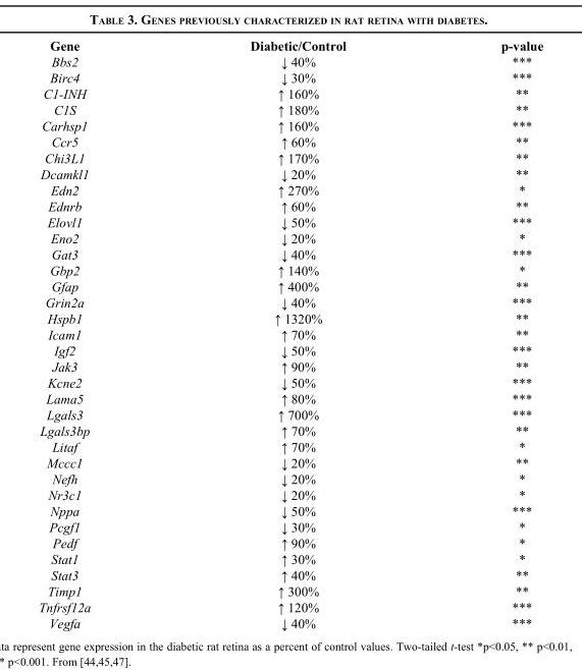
<table><thead><tr><td>Gene</td><td>Diabetic/Control</td><td>p-value</td></tr></thead><tbody><tr><td>Bbs2</td><td>↓ 40%</td><td>***</td></tr><tr><td>Birc4</td><td>↓ 30%</td><td>***</td></tr><tr><td>C1-INH</td><td>↑ 160%</td><td>**</td></tr><tr><td>C1S</td><td>↑ 180%</td><td>**</td></tr><tr><td>Carhsp1</td><td>↑ 160%</td><td>***</td></tr><tr><td>Ccr5</td><td>↑ 60%</td><td>**</td></tr><tr><td>Chi3L1</td><td>↑ 170%</td><td>**</td></tr><tr><td>Dcamkl1</td><td>↓ 20%</td><td>**</td></tr><tr><td>Edn2</td><td>↑ 270%</td><td>*</td></tr><tr><td>Ednrb</td><td>↑ 60%</td><td>**</td></tr><tr><td>Elovl1</td><td>↓ 50%</td><td>***</td></tr><tr><td>Eno2</td><td>↓ 20%</td><td>*</td></tr><tr><td>Gat3</td><td>↓ 40%</td><td>***</td></tr><tr><td>Gbp2</td><td>↑ 140%</td><td>*</td></tr><tr><td>Gfap</td><td>↑ 400%</td><td>**</td></tr><tr><td>Grin2a</td><td>↓ 40%</td><td>***</td></tr><tr><td>Hspb1</td><td>↑ 1320%</td><td>**</td></tr><tr><td>Icam1</td><td>↑ 70%</td><td>**</td></tr><tr><td>Igf2</td><td>↓ 50%</td><td>***</td></tr><tr><td>Jak3</td><td>↑ 90%</td><td>**</td></tr><tr><td>Kcne2</td><td>↓ 50%</td><td>***</td></tr><tr><td>Lama5</td><td>↑ 80%</td><td>***</td></tr><tr><td>Lgals3</td><td>↑ 700%</td><td>***</td></tr><tr><td>Lgals3bp</td><td>↑ 70%</td><td>**</td></tr><tr><td>Litaf</td><td>↑ 70%</td><td>*</td></tr><tr><td>Mccc1</td><td>↓ 20%</td><td>**</td></tr><tr><td>Nefh</td><td>↓ 20%</td><td>*</td></tr><tr><td>Nr3c1</td><td>↓ 20%</td><td>*</td></tr><tr><td>Nppa</td><td>↓ 50%</td><td>***</td></tr><tr><td>Pcgf1</td><td>↓ 30%</td><td>*</td></tr><tr><td>Pedf</td><td>↑ 90%</td><td>*</td></tr><tr><td>Stat1</td><td>↑ 30%</td><td>*</td></tr><tr><td>Stat3</td><td>↑ 40%</td><td>**</td></tr><tr><td>Timp1</td><td>↑ 300%</td><td>**</td></tr><tr><td>Tnfrsf12a</td><td>↑ 120%</td><td>***</td></tr><tr><td>Vegfa</td><td>↓ 40%</td><td>***</td></tr></tbody></table>